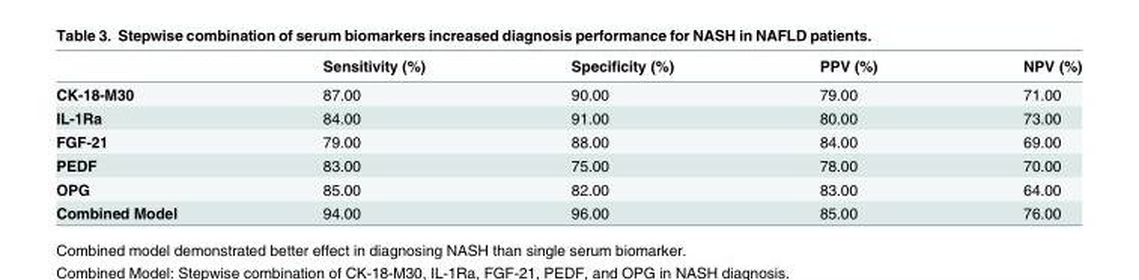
<table><thead><tr><td></td><td>Sensitivity (%)</td><td>Specificity (%)</td><td>PPV (%)</td><td>NPV (%)</td></tr></thead><tbody><tr><td>CK-18-M30</td><td>87.00</td><td>90.00</td><td>79.00</td><td>71.00</td></tr><tr><td>IL-1Ra</td><td>84.00</td><td>91.00</td><td>80.00</td><td>73.00</td></tr><tr><td>FGF-21</td><td>79.00</td><td>88.00</td><td>84.00</td><td>69.00</td></tr><tr><td>PEDF</td><td>83.00</td><td>75.00</td><td>78.00</td><td>70.00</td></tr><tr><td>OPG</td><td>85.00</td><td>82.00</td><td>83.00</td><td>64.00</td></tr><tr><td>Combined Model</td><td>94.00</td><td>96.00</td><td>85.00</td><td>76.00</td></tr></tbody></table>